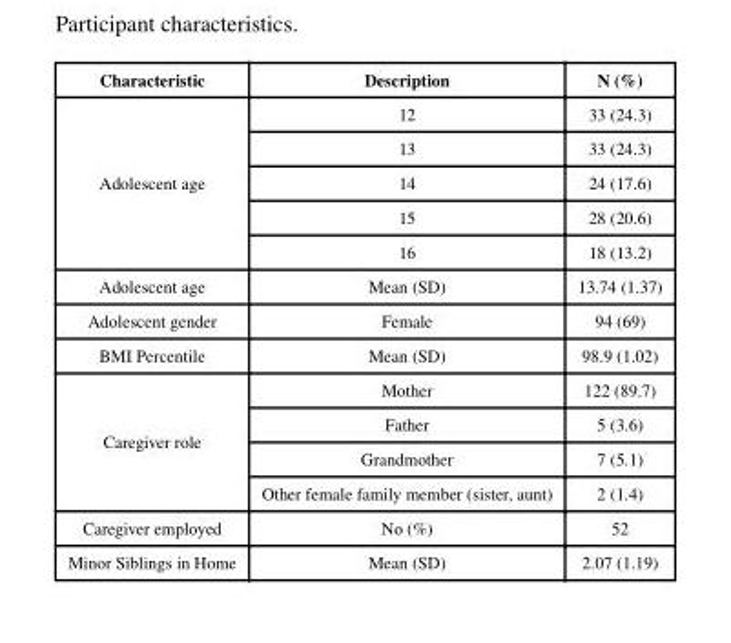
<table><thead><tr><td>Characteristic</td><td>Description</td><td>N (%)</td></tr></thead><tbody><tr><td rowspan="5">Adolescent age</td><td>12</td><td>33 (24.3)</td></tr><tr><td>13</td><td>33 (24.3)</td></tr><tr><td>14</td><td>24 (17.6)</td></tr><tr><td>15</td><td>28 (20.6)</td></tr><tr><td>16</td><td>18 (13.2)</td></tr><tr><td>Adolescent age</td><td>Mean (SD)</td><td>13.74 (1.37)</td></tr><tr><td>Adolescent gender</td><td>Female</td><td>94 (69)</td></tr><tr><td>BMI Percentile</td><td>Mean (SD)</td><td>98.9 (1.02)</td></tr><tr><td rowspan="4">Caregiver role</td><td>Mother</td><td>122 (89.7)</td></tr><tr><td>Father</td><td>5 (3.6)</td></tr><tr><td>Grandmother</td><td>7 (5.1)</td></tr><tr><td>Other female family member (sister, aunt)</td><td>2 (1.4)</td></tr><tr><td>Caregiver employed</td><td>No (%)</td><td>52</td></tr><tr><td>Minor Siblings in Home</td><td>Mean (SD)</td><td>2.07 (1.19)</td></tr></tbody></table>